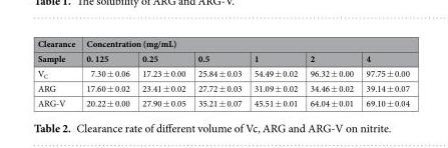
<table><thead><tr><td rowspan="2">Clearance Sample</td><td colspan="6">Concentration (mg/mL)</td></tr><tr><td>0. 125</td><td>0.25</td><td>0.5</td><td>1</td><td>2</td><td>4</td></tr></thead><tbody><tr><td>V<sub>C</sub></td><td>7.30 ± 0.06</td><td>17.23 ± 0.00</td><td>25.84 ± 0.03</td><td>54.49 ± 0.02</td><td>96.32 ± 0.00</td><td>97.75 ± 0.00</td></tr><tr><td>ARG</td><td>17.60 ± 0.02</td><td>23.41 ± 0.02</td><td>27.72 ± 0.03</td><td>31.09 ± 0.02</td><td>34.46 ± 0.02</td><td>39.14 ± 0.07</td></tr><tr><td>ARG-V</td><td>20.22 ± 0.00</td><td>27.90 ± 0.05</td><td>35.21 ± 0.07</td><td>45.51 ± 0.01</td><td>64.04 ± 0.01</td><td>69.10 ± 0.04</td></tr></tbody></table>